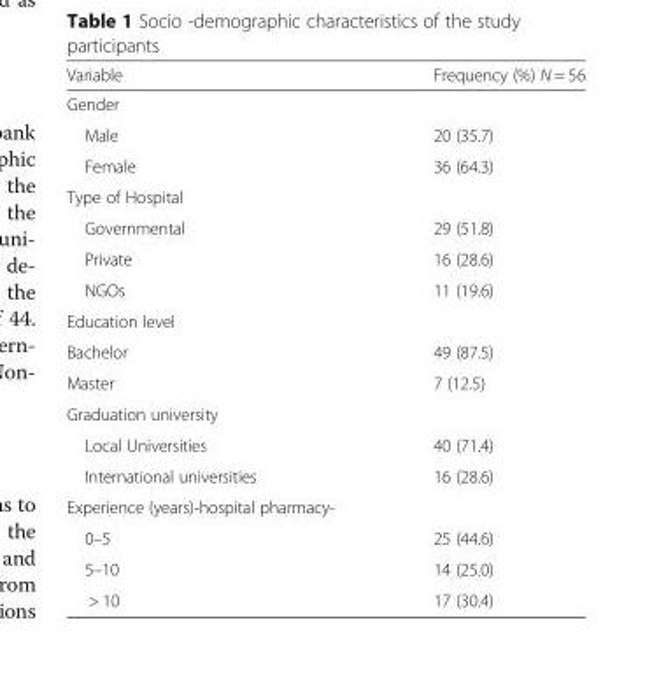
<table><thead><tr><td>Variable</td><td>Frequency (%) N = 56</td></tr></thead><tbody><tr><td colspan="2">Gender</td></tr><tr><td>Male</td><td>20 (35.7)</td></tr><tr><td>Female</td><td>36 (64.3)</td></tr><tr><td colspan="2">Type of Hospital</td></tr><tr><td>Governmental</td><td>29 (51.8)</td></tr><tr><td>Private</td><td>16 (28.6)</td></tr><tr><td>NGOs</td><td>11 (19.6)</td></tr><tr><td colspan="2">Education level</td></tr><tr><td>Bachelor</td><td>49 (87.5)</td></tr><tr><td>Master</td><td>7 (12.5)</td></tr><tr><td colspan="2">Graduation university</td></tr><tr><td>Local Universities</td><td>40 (71.4)</td></tr><tr><td>International universities</td><td>16 (28.6)</td></tr><tr><td colspan="2">Experience (years)-hospital pharmacy-</td></tr><tr><td>0–5</td><td>25 (44.6)</td></tr><tr><td>5–10</td><td>14 (25.0)</td></tr><tr><td>&gt; 10</td><td>17 (30.4)</td></tr></tbody></table>